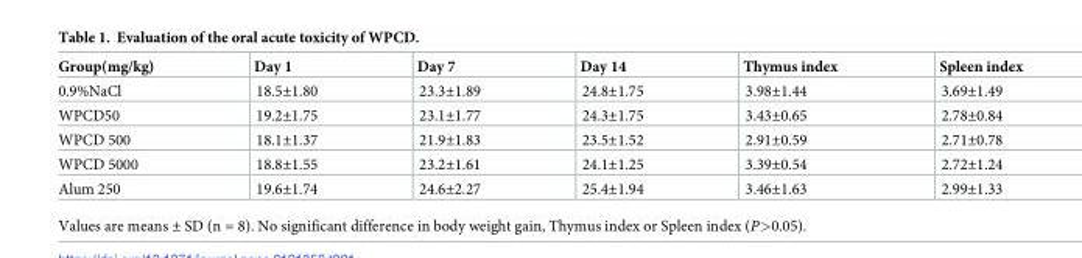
<table><thead><tr><td>Group(mg/kg)</td><td>Day 1</td><td>Day 7</td><td>Day 14</td><td>Thymus index</td><td>Spleen index</td></tr></thead><tbody><tr><td>0.9%NaCl</td><td>18.5±1.80</td><td>23.3±1.89</td><td>24.8±1.75</td><td>3.98±1.44</td><td>3.69±1.49</td></tr><tr><td>WPCD50</td><td>19.2±1.75</td><td>23.1±1.77</td><td>24.3±1.75</td><td>3.43±0.65</td><td>2.78±0.84</td></tr><tr><td>WPCD 500</td><td>18.1±1.37</td><td>21.9±1.83</td><td>23.5±1.52</td><td>2.91±0.59</td><td>2.71±0.78</td></tr><tr><td>WPCD 5000</td><td>18.8±1.55</td><td>23.2±1.61</td><td>24.1±1.25</td><td>3.39±0.54</td><td>2.72±1.24</td></tr><tr><td>Alum 250</td><td>19.6±1.74</td><td>24.6±2.27</td><td>25.4±1.94</td><td>3.46±1.63</td><td>2.99±1.33</td></tr></tbody></table>